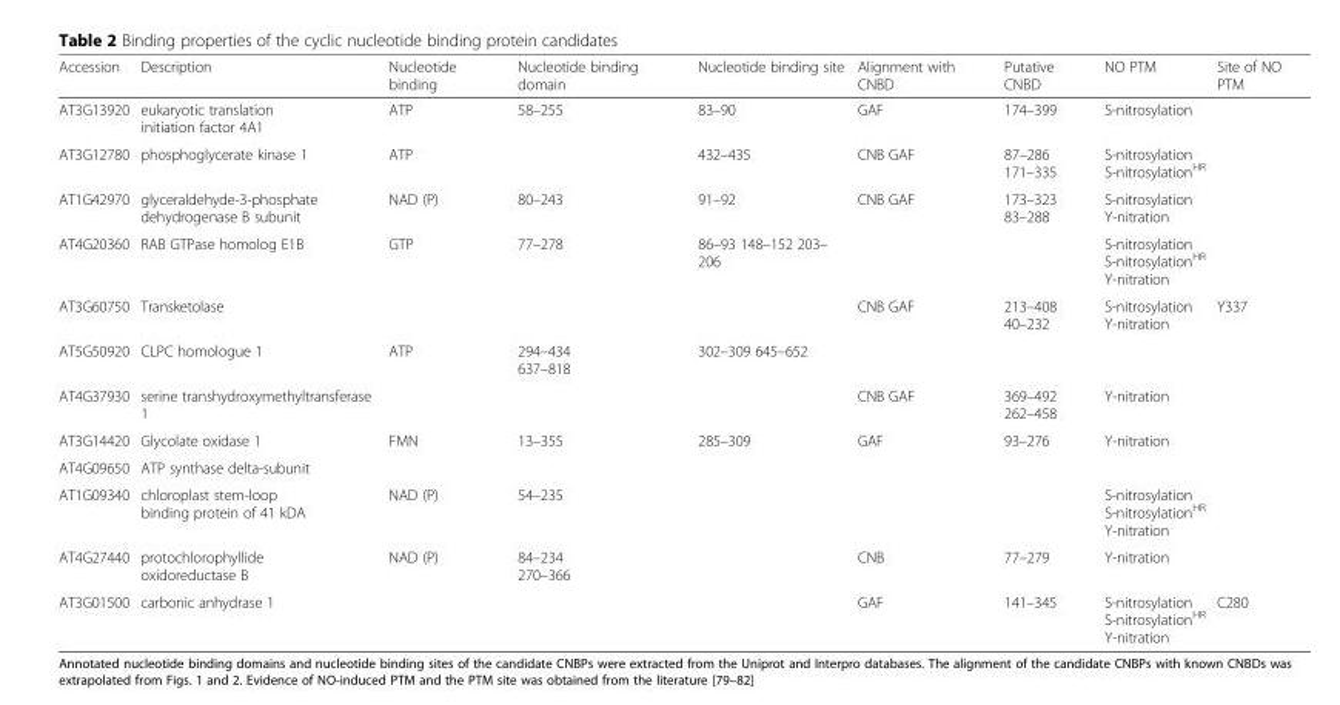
<table><thead><tr><td>Accession</td><td>Description</td><td>Nucleotide binding</td><td>Nucleotide binding domain</td><td>Nucleotide binding site</td><td>Alignment with CNBD</td><td>Putative CNBD</td><td>NO PTM</td><td>Site of NO PTM</td></tr></thead><tbody><tr><td>AT3G13920</td><td>eukaryotic translation initiation factor 4A1</td><td>ATP</td><td>58–255</td><td>83–90</td><td>GAF</td><td>174–399</td><td>S-nitrosylation</td><td></td></tr><tr><td>AT3G12780</td><td>phosphoglycerate kinase 1</td><td>ATP</td><td></td><td>432–435</td><td>CNB GAF</td><td>87–286 171–335</td><td>S-nitrosylation S-nitrosylation<sup>HR</sup></td><td></td></tr><tr><td>AT1G42970</td><td>glyceraldehyde-3-phosphate dehydrogenase B subunit</td><td>NAD (P)</td><td>80–243</td><td>91–92</td><td>CNB GAF</td><td>173–323 83–288</td><td>S-nitrosylation Y-nitration</td><td></td></tr><tr><td>AT4G20360</td><td>RAB GTPase homolog E1B</td><td>GTP</td><td>77–278</td><td>86–93 148–152 203– 206</td><td></td><td></td><td>S-nitrosylation S-nitrosylation<sup>HR</sup> Y-nitration</td><td></td></tr><tr><td>AT3G60750</td><td>Transketolase</td><td></td><td></td><td></td><td>CNB GAF</td><td>213–408 40–232</td><td>S-nitrosylation Y-nitration</td><td>Y337</td></tr><tr><td>AT5G50920</td><td>CLPC homologue 1</td><td>ATP</td><td>294–434 637–818</td><td>302–309 645–652</td><td></td><td></td><td></td><td></td></tr><tr><td>AT4G37930</td><td>serine transhydroxymethyltransferase 1</td><td></td><td></td><td></td><td>CNB GAF</td><td>369–492 262–458</td><td>Y-nitration</td><td></td></tr><tr><td>AT3G14420</td><td>Glycolate oxidase 1</td><td>FMN</td><td>13–355</td><td>285–309</td><td>GAF</td><td>93–276</td><td>Y-nitration</td><td></td></tr><tr><td>AT4G09650</td><td>ATP synthase delta-subunit</td><td></td><td></td><td></td><td></td><td></td><td></td><td></td></tr><tr><td>AT1G09340</td><td>chloroplast stem-loop binding protein of 41 kDA</td><td>NAD (P)</td><td>54–235</td><td></td><td></td><td></td><td>S-nitrosylation S-nitrosylation<sup>HR</sup> Y-nitration</td><td></td></tr><tr><td>AT4G27440</td><td>protochlorophyllide oxidoreductase B</td><td>NAD (P)</td><td>84–234 270–366</td><td></td><td>CNB</td><td>77–279</td><td>Y-nitration</td><td></td></tr><tr><td>AT3G01500</td><td>carbonic anhydrase 1</td><td></td><td></td><td></td><td>GAF</td><td>141–345</td><td>S-nitrosylation S-nitrosylation<sup>HR</sup> Y-nitration</td><td>C280</td></tr></tbody></table>